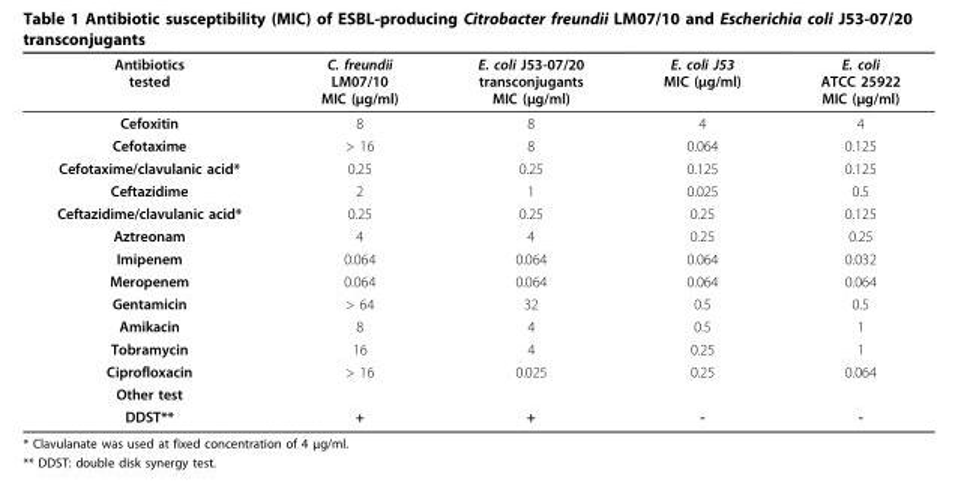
<table><thead><tr><td>Antibiotics tested</td><td>C. freundii LM07/10 MIC (μg/ml)</td><td>E. coli J53-07/20 transconjugants MIC (μg/ml)</td><td>E. coli J53 MIC (μg/ml)</td><td>E. coli ATCC 25922 MIC (μg/ml)</td></tr></thead><tbody><tr><td>Cefoxitin</td><td>8</td><td>8</td><td>4</td><td>4</td></tr><tr><td>Cefotaxime</td><td>&gt; 16</td><td>8</td><td>0.064</td><td>0.125</td></tr><tr><td>Cefotaxime/clavulanic acid*</td><td>0.25</td><td>0.25</td><td>0.125</td><td>0.125</td></tr><tr><td>Ceftazidime</td><td>2</td><td>1</td><td>0.025</td><td>0.5</td></tr><tr><td>Ceftazidime/clavulanic acid*</td><td>0.25</td><td>0.25</td><td>0.25</td><td>0.125</td></tr><tr><td>Aztreonam</td><td>4</td><td>4</td><td>0.25</td><td>0.25</td></tr><tr><td>Imipenem</td><td>0.064</td><td>0.064</td><td>0.064</td><td>0.032</td></tr><tr><td>Meropenem</td><td>0.064</td><td>0.064</td><td>0.064</td><td>0.064</td></tr><tr><td>Gentamicin</td><td>&gt; 64</td><td>32</td><td>0.5</td><td>0.5</td></tr><tr><td>Amikacin</td><td>8</td><td>4</td><td>0.5</td><td>1</td></tr><tr><td>Tobramycin</td><td>16</td><td>4</td><td>0.25</td><td>1</td></tr><tr><td>Ciprofloxacin</td><td>&gt; 16</td><td>0.025</td><td>0.25</td><td>0.064</td></tr><tr><td colspan="5">Other test</td></tr><tr><td>DDST**</td><td>+</td><td>+</td><td>-</td><td>-</td></tr></tbody></table>